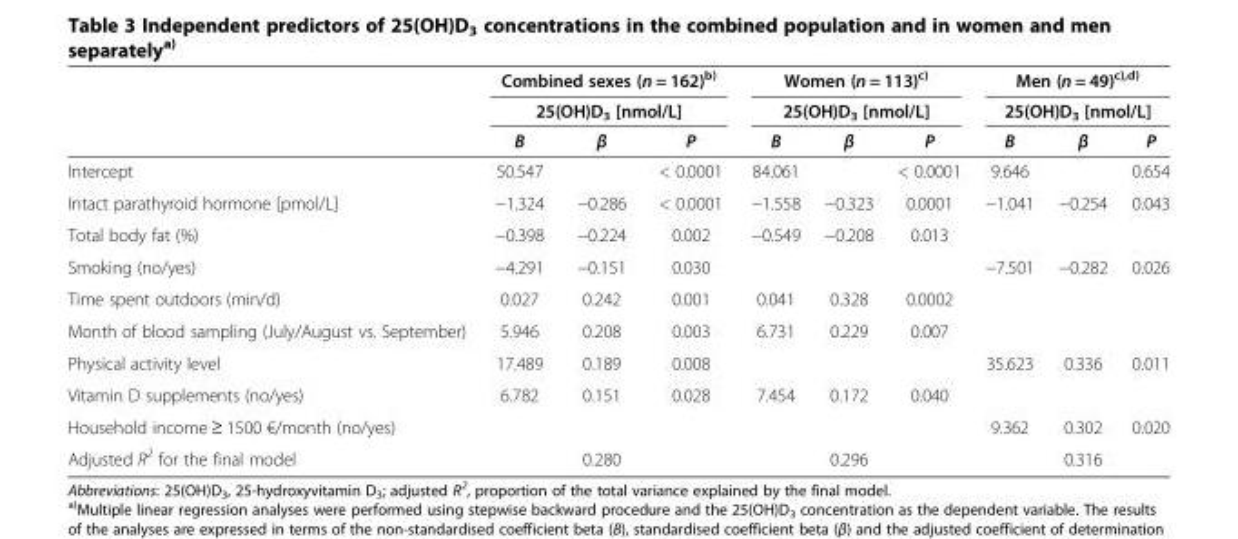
<table><thead><tr><td rowspan="3"></td><td rowspan="2" colspan="3">Combined sexes (n = 162)<sup>b)</sup> 25(OH)D<sub>3</sub> [nmol/L]</td><td rowspan="2" colspan="3">Women (n = 113)<sup>c)</sup> 25(OH)D<sub>3</sub> [nmol/L]</td><td rowspan="2" colspan="3">Men (n = 49)<sup>c),d)</sup> 25(OH)D<sub>3</sub> [nmol/L]</td></tr><tr></tr><tr><td>B</td><td>β</td><td>P</td><td>B</td><td>β</td><td>P</td><td>B</td><td>β</td><td>P</td></tr></thead><tbody><tr><td>Intercept</td><td>50.547</td><td></td><td>&lt; 0.0001</td><td>84.061</td><td></td><td>&lt; 0.0001</td><td>9.646</td><td></td><td>0.654</td></tr><tr><td>Intact parathyroid hormone [pmol/L]</td><td>−1.324</td><td>−0.286</td><td>&lt; 0.0001</td><td>−1.558</td><td>−0.323</td><td>0.0001</td><td>−1.041</td><td>−0.254</td><td>0.043</td></tr><tr><td>Total body fat (%)</td><td>−0.398</td><td>−0.224</td><td>0.002</td><td>−0.549</td><td>−0.208</td><td>0.013</td><td></td><td></td><td></td></tr><tr><td>Smoking (no/yes)</td><td>−4.291</td><td>−0.151</td><td>0.030</td><td></td><td></td><td></td><td>−7.501</td><td>−0.282</td><td>0.026</td></tr><tr><td>Time spent outdoors (min/d)</td><td>0.027</td><td>0.242</td><td>0.001</td><td>0.041</td><td>0.328</td><td>0.0002</td><td></td><td></td><td></td></tr><tr><td>Month of blood sampling (July/August vs. September)</td><td>5.946</td><td>0.208</td><td>0.003</td><td>6.731</td><td>0.229</td><td>0.007</td><td></td><td></td><td></td></tr><tr><td>Physical activity level</td><td>17.489</td><td>0.189</td><td>0.008</td><td></td><td></td><td></td><td>35.623</td><td>0.336</td><td>0.011</td></tr><tr><td>Vitamin D supplements (no/yes)</td><td>6.782</td><td>0.151</td><td>0.028</td><td>7.454</td><td>0.172</td><td>0.040</td><td></td><td></td><td></td></tr><tr><td>Household income ≥ 1500 €/month (no/yes)</td><td></td><td></td><td></td><td></td><td></td><td></td><td>9.362</td><td>0.302</td><td>0.020</td></tr><tr><td>Adjusted R<sup>2</sup> for the final model</td><td></td><td>0.280</td><td></td><td></td><td>0.296</td><td></td><td></td><td>0.316</td><td></td></tr></tbody></table>